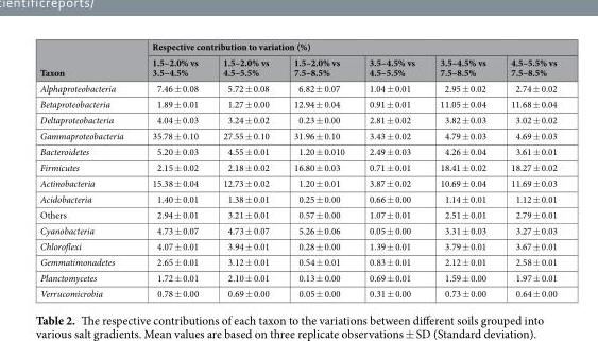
<table><thead><tr><td rowspan="2">Taxon</td><td colspan="6">Respective contribution to variation (%)</td></tr><tr><td>1.5–2.0% vs 3.5–4.5%</td><td>1.5–2.0% vs 4.5–5.5%</td><td>1.5–2.0% vs 7.5–8.5%</td><td>3.5–4.5% vs 4.5–5.5%</td><td>3.5–4.5% vs 7.5–8.5%</td><td>4.5–5.5% vs 7.5–8.5%</td></tr></thead><tbody><tr><td>Alphaproteobacteria</td><td>7.46 ± 0.08</td><td>5.72 ± 0.08</td><td>6.82 ± 0.07</td><td>1.04 ± 0.01</td><td>2.95 ± 0.02</td><td>2.74 ± 0.02</td></tr><tr><td>Betaproteobacteria</td><td>1.89 ± 0.01</td><td>1.27 ± 0.00</td><td>12.94 ± 0.04</td><td>0.91 ± 0.01</td><td>11.05 ± 0.04</td><td>11.68 ± 0.04</td></tr><tr><td>Deltaproteobacteria</td><td>4.04 ± 0.03</td><td>3.24 ± 0.02</td><td>0.23 ± 0.00</td><td>2.81 ± 0.02</td><td>3.82 ± 0.03</td><td>3.02 ± 0.02</td></tr><tr><td>Gammaproteobacteria</td><td>35.78 ± 0.10</td><td>27.55 ± 0.10</td><td>31.96 ± 0.10</td><td>3.43 ± 0.02</td><td>4.79 ± 0.03</td><td>4.69 ± 0.03</td></tr><tr><td>Bacteroidetes</td><td>5.20 ± 0.03</td><td>4.55 ± 0.01</td><td>1.20 ± 0.010</td><td>2.49 ± 0.03</td><td>4.26 ± 0.04</td><td>3.61 ± 0.01</td></tr><tr><td>Firmicutes</td><td>2.15 ± 0.02</td><td>2.18 ± 0.02</td><td>16.80 ± 0.03</td><td>0.71 ± 0.01</td><td>18.41 ± 0.02</td><td>18.27 ± 0.02</td></tr><tr><td>Actinobacteria</td><td>15.38 ± 0.04</td><td>12.73 ± 0.02</td><td>1.20 ± 0.01</td><td>3.87 ± 0.02</td><td>10.69 ± 0.04</td><td>11.69 ± 0.03</td></tr><tr><td>Acidobacteria</td><td>1.40 ± 0.01</td><td>1.38 ± 0.01</td><td>0.25 ± 0.00</td><td>0.66 ± 0.00</td><td>1.14 ± 0.01</td><td>1.12 ± 0.01</td></tr><tr><td>Others</td><td>2.94 ± 0.01</td><td>3.21 ± 0.01</td><td>0.57 ± 0.00</td><td>1.07 ± 0.01</td><td>2.51 ± 0.01</td><td>2.79 ± 0.01</td></tr><tr><td>Cyanobacteria</td><td>4.73 ± 0.07</td><td>4.73 ± 0.07</td><td>5.26 ± 0.06</td><td>0.05 ± 0.00</td><td>3.31 ± 0.03</td><td>3.27 ± 0.03</td></tr><tr><td>Chloroflexi</td><td>4.07 ± 0.01</td><td>3.94 ± 0.01</td><td>0.28 ± 0.00</td><td>1.39 ± 0.01</td><td>3.79 ± 0.01</td><td>3.67 ± 0.01</td></tr><tr><td>Gemmatimonadetes</td><td>2.65 ± 0.01</td><td>3.12 ± 0.01</td><td>0.54 ± 0.01</td><td>0.83 ± 0.01</td><td>2.12 ± 0.01</td><td>2.58 ± 0.01</td></tr><tr><td>Planctomycetes</td><td>1.72 ± 0.01</td><td>2.10 ± 0.01</td><td>0.13 ± 0.00</td><td>0.69 ± 0.01</td><td>1.59 ± 0.00</td><td>1.97 ± 0.01</td></tr><tr><td>Verrucomicrobia</td><td>0.78 ± 0.00</td><td>0.69 ± 0.00</td><td>0.05 ± 0.00</td><td>0.31 ± 0.00</td><td>0.73 ± 0.00</td><td>0.64 ± 0.00</td></tr></tbody></table>